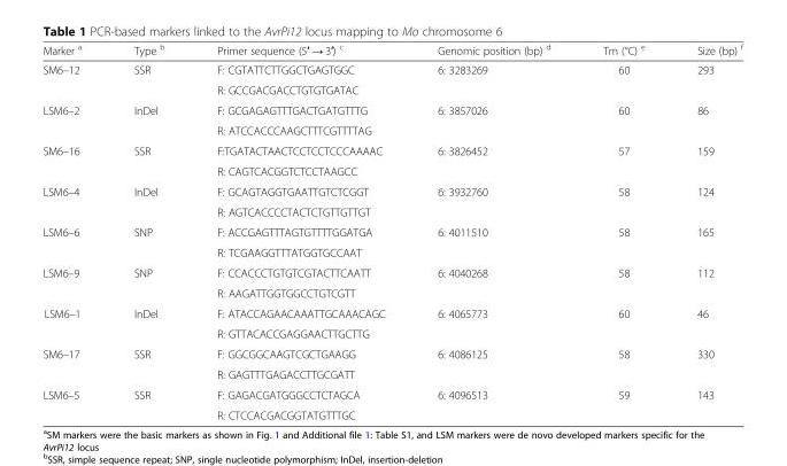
<table><thead><tr><td>Marker <sup>a</sup></td><td>Type <sup>b</sup></td><td>Primer sequence (5′ → 3′) <sup>c</sup></td><td>Genomic position (bp) <sup>d</sup></td><td>Tm (°C) <sup>e</sup></td><td>Size (bp) <sup>f</sup></td></tr></thead><tbody><tr><td rowspan="2">SM6–12</td><td rowspan="2">SSR</td><td>F: CGTATTCTTGGCTGAGTGGC</td><td>6: 3283269</td><td rowspan="2">60</td><td rowspan="2">293</td></tr><tr><td>R: GCCGACGACCTGTGTGATAC</td><td></td></tr><tr><td rowspan="2">LSM6–2</td><td rowspan="2">InDel</td><td>F: GCGAGAGTTTGACTGATGTTTG</td><td>6: 3857026</td><td rowspan="2">60</td><td rowspan="2">86</td></tr><tr><td>R: ATCCACCCAAGCTTTCGTTTTAG</td><td></td></tr><tr><td rowspan="2">SM6–16</td><td rowspan="2">SSR</td><td>F:TGATACTAACTCCTCCTCCCAAAAC</td><td>6: 3826452</td><td rowspan="2">57</td><td rowspan="2">159</td></tr><tr><td>R: CAGTCACGGTCTCCTAAGCC</td><td></td></tr><tr><td rowspan="2">LSM6–4</td><td rowspan="2">InDel</td><td>F: GCAGTAGGTGAATTGTCTCGGT</td><td>6: 3932760</td><td rowspan="2">58</td><td rowspan="2">124</td></tr><tr><td>R: AGTCACCCCTACTCTGTTGTTGT</td><td></td></tr><tr><td rowspan="2">LSM6–6</td><td rowspan="2">SNP</td><td>F: ACCGAGTTTAGTGTTTTGGATGA</td><td>6: 4011510</td><td rowspan="2">58</td><td rowspan="2">165</td></tr><tr><td>R: TCGAAGGTTTATGGTGCCAAT</td><td></td></tr><tr><td rowspan="2">LSM6–9</td><td rowspan="2">SNP</td><td>F: CCACCCTGTGTCGTACTTCAATT</td><td>6: 4040268</td><td rowspan="2">58</td><td rowspan="2">112</td></tr><tr><td>R: AAGATTGGTGGCCTGTCGTT</td><td></td></tr><tr><td rowspan="2">LSM6–1</td><td rowspan="2">InDel</td><td>F: ATACCAGAACAAATTGCAAACAGC</td><td>6: 4065773</td><td rowspan="2">60</td><td rowspan="2">46</td></tr><tr><td>R: GTTACACCGAGGAACTTGCTTG</td><td></td></tr><tr><td rowspan="2">SM6–17</td><td rowspan="2">SSR</td><td>F: GGCGGCAAGTCGCTGAAGG</td><td>6: 4086125</td><td rowspan="2">58</td><td rowspan="2">330</td></tr><tr><td>R: GAGTTTGAGACCTTGCGATT</td><td></td></tr><tr><td rowspan="2">LSM6–5</td><td rowspan="2">SSR</td><td>F: GAGACGATGGGCCTCTAGCA</td><td>6: 4096513</td><td rowspan="2">59</td><td rowspan="2">143</td></tr><tr><td>R: CTCCACGACGGTATGTTTGC</td><td></td></tr></tbody></table>